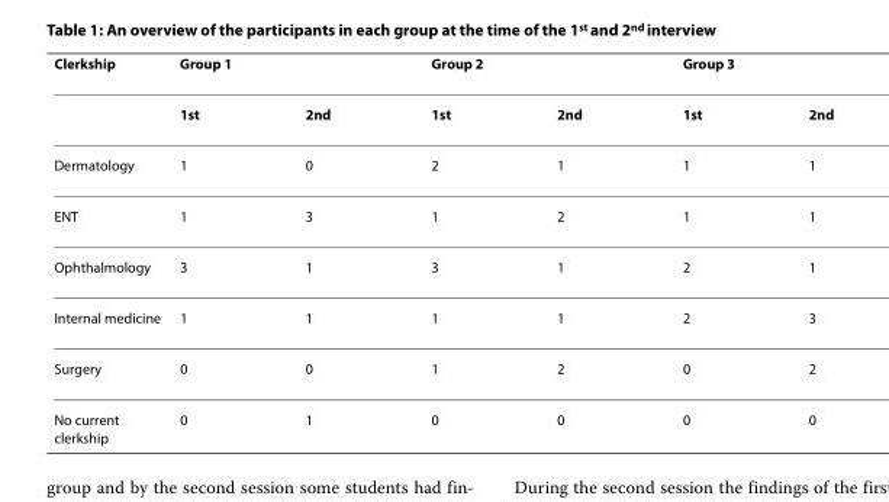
<table><thead><tr><td rowspan="2">Clerkship</td><td colspan="2">Group 1</td><td colspan="2">Group 2</td><td colspan="2">Group 3</td></tr><tr><td>1<sup>st</sup></td><td>2<sup>nd</sup></td><td>1<sup>st</sup></td><td>2<sup>nd</sup></td><td>1<sup>st</sup></td><td>2<sup>nd</sup></td></tr></thead><tbody><tr><td>Dermatology</td><td>1</td><td>0</td><td>2</td><td>1</td><td>1</td><td>1</td></tr><tr><td>ENT</td><td>1</td><td>3</td><td>1</td><td>2</td><td>1</td><td>1</td></tr><tr><td>Ophthalmology</td><td>3</td><td>1</td><td>3</td><td>1</td><td>2</td><td>1</td></tr><tr><td>Internal medicine</td><td>1</td><td>1</td><td>1</td><td>1</td><td>2</td><td>3</td></tr><tr><td>Surgery</td><td>0</td><td>0</td><td>1</td><td>2</td><td>0</td><td>2</td></tr><tr><td>No current clerkship</td><td>0</td><td>1</td><td>0</td><td>0</td><td>0</td><td>0</td></tr></tbody></table>